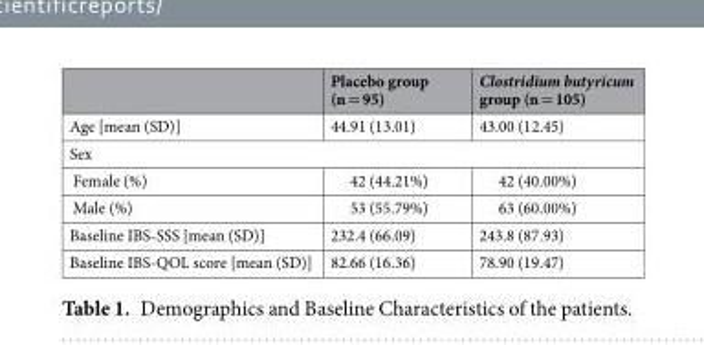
<table><thead><tr><td></td><td>Placebo group (n = 95)</td><td>Clostridium butyricum group (n = 105)</td></tr></thead><tbody><tr><td>Age [mean (SD)]</td><td>44.91 (13.01)</td><td>43.00 (12.45)</td></tr><tr><td colspan="3">Sex</td></tr><tr><td>Female (%)</td><td>42 (44.21%)</td><td>42 (40.00%)</td></tr><tr><td>Male (%)</td><td>53 (55.79%)</td><td>63 (60.00%)</td></tr><tr><td>Baseline IBS-SSS [mean (SD)]</td><td>232.4 (66.09)</td><td>243.8 (87.93)</td></tr><tr><td>Baseline IBS-QOL score [mean (SD)]</td><td>82.66 (16.36)</td><td>78.90 (19.47)</td></tr></tbody></table>